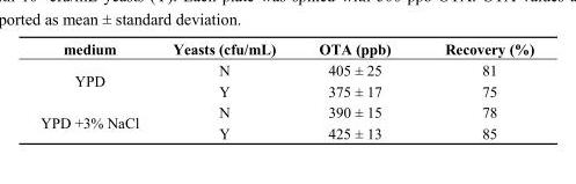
<table><thead><tr><td>medium</td><td>Yeasts (cfu/mL)</td><td>OTA (ppb)</td><td>Recovery (%)</td></tr></thead><tbody><tr><td rowspan="2">YPD</td><td>N</td><td>405 ± 25</td><td>81</td></tr><tr><td>Y</td><td>375 ± 17</td><td>75</td></tr><tr><td rowspan="2">YPD +3% NaCl</td><td>N</td><td>390 ± 15</td><td>78</td></tr><tr><td>Y</td><td>425 ± 13</td><td>85</td></tr></tbody></table>